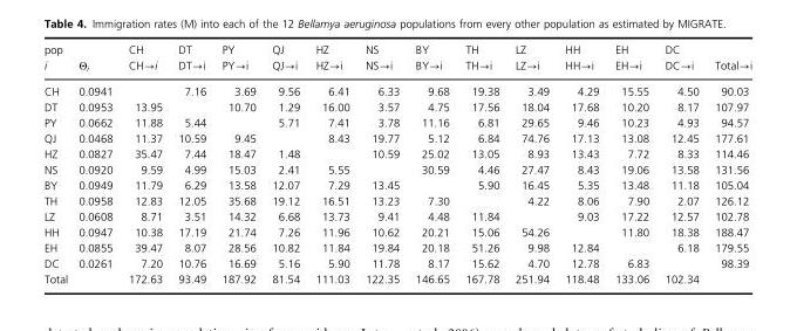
<table><thead><tr><td rowspan="2">pop i</td><td rowspan="2">Θ<sub>i</sub></td><td rowspan="2">CH CH→i</td><td rowspan="2">DT DT→i</td><td rowspan="2">PY PY→i</td><td rowspan="2">QJ QJ→i</td><td rowspan="2">HZ HZ→i</td><td rowspan="2">NS NS→i</td><td rowspan="2">BY BY→i</td><td rowspan="2">TH TH→i</td><td rowspan="2">LZ LZ→i</td><td rowspan="2">HH HH→i</td><td rowspan="2">EH EH→i</td><td rowspan="2">DC DC→i</td><td rowspan="2">Total→i</td></tr><tr></tr></thead><tbody><tr><td>CH</td><td>0.0941</td><td></td><td>7.16</td><td>3.69</td><td>9.56</td><td>6.41</td><td>6.33</td><td>9.68</td><td>19.38</td><td>3.49</td><td>4.29</td><td>15.55</td><td>4.50</td><td>90.03</td></tr><tr><td>DT</td><td>0.0953</td><td>13.95</td><td></td><td>10.70</td><td>1.29</td><td>16.00</td><td>3.57</td><td>4.75</td><td>17.56</td><td>18.04</td><td>17.68</td><td>10.20</td><td>8.17</td><td>107.97</td></tr><tr><td>PY</td><td>0.0662</td><td>11.88</td><td>5.44</td><td></td><td>5.71</td><td>7.41</td><td>3.78</td><td>11.16</td><td>6.81</td><td>29.65</td><td>9.46</td><td>10.23</td><td>4.93</td><td>94.57</td></tr><tr><td>QJ</td><td>0.0468</td><td>11.37</td><td>10.59</td><td>9.45</td><td></td><td>8.43</td><td>19.77</td><td>5.12</td><td>6.84</td><td>74.76</td><td>17.13</td><td>13.08</td><td>12.45</td><td>177.61</td></tr><tr><td>HZ</td><td>0.0827</td><td>35.47</td><td>7.44</td><td>18.47</td><td>1.48</td><td></td><td>10.59</td><td>25.02</td><td>13.05</td><td>8.93</td><td>13.43</td><td>7.72</td><td>8.33</td><td>114.46</td></tr><tr><td>NS</td><td>0.0920</td><td>9.59</td><td>4.99</td><td>15.03</td><td>2.41</td><td>5.55</td><td></td><td>30.59</td><td>4.46</td><td>27.47</td><td>8.43</td><td>19.06</td><td>13.58</td><td>131.56</td></tr><tr><td>BY</td><td>0.0949</td><td>11.79</td><td>6.29</td><td>13.58</td><td>12.07</td><td>7.29</td><td>13.45</td><td></td><td>5.90</td><td>16.45</td><td>5.35</td><td>13.48</td><td>11.18</td><td>105.04</td></tr><tr><td>TH</td><td>0.0958</td><td>12.83</td><td>12.05</td><td>35.68</td><td>19.12</td><td>16.51</td><td>13.23</td><td>7.30</td><td></td><td>4.22</td><td>8.06</td><td>7.90</td><td>2.07</td><td>126.12</td></tr><tr><td>LZ</td><td>0.0608</td><td>8.71</td><td>3.51</td><td>14.32</td><td>6.68</td><td>13.73</td><td>9.41</td><td>4.48</td><td>11.84</td><td></td><td>9.03</td><td>17.22</td><td>12.57</td><td>102.78</td></tr><tr><td>HH</td><td>0.0947</td><td>10.38</td><td>17.19</td><td>21.74</td><td>7.26</td><td>11.96</td><td>10.62</td><td>20.21</td><td>15.06</td><td>54.26</td><td></td><td>11.80</td><td>18.38</td><td>188.47</td></tr><tr><td>EH</td><td>0.0855</td><td>39.47</td><td>8.07</td><td>28.56</td><td>10.82</td><td>11.84</td><td>19.84</td><td>20.18</td><td>51.26</td><td>9.98</td><td>12.84</td><td></td><td>6.18</td><td>179.55</td></tr><tr><td>DC</td><td>0.0261</td><td>7.20</td><td>10.76</td><td>16.69</td><td>5.16</td><td>5.90</td><td>11.78</td><td>8.17</td><td>15.62</td><td>4.70</td><td>12.78</td><td>6.83</td><td></td><td>98.39</td></tr><tr><td colspan="2">Total</td><td>172.63</td><td>93.49</td><td>187.92</td><td>81.54</td><td>111.03</td><td>122.35</td><td>146.65</td><td>167.78</td><td>251.94</td><td>118.48</td><td>133.06</td><td>102.34</td><td></td></tr></tbody></table>